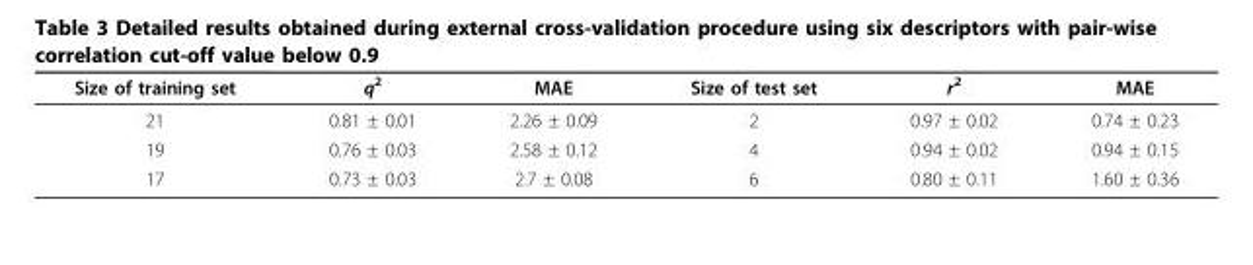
<table><thead><tr><td>Size of training set</td><td>q<sup>2</sup></td><td>MAE</td><td>Size of test set</td><td>r<sup>2</sup></td><td>MAE</td></tr></thead><tbody><tr><td>21</td><td>0.81 ± 0.01</td><td>2.26 ± 0.09</td><td>2</td><td>0.97 ± 0.02</td><td>0.74 ± 0.23</td></tr><tr><td>19</td><td>0.76 ± 0.03</td><td>2.58 ± 0.12</td><td>4</td><td>0.94 ± 0.02</td><td>0.94 ± 0.15</td></tr><tr><td>17</td><td>0.73 ± 0.03</td><td>2.7 ± 0.08</td><td>6</td><td>0.80 ± 0.11</td><td>1.60 ± 0.36</td></tr></tbody></table>